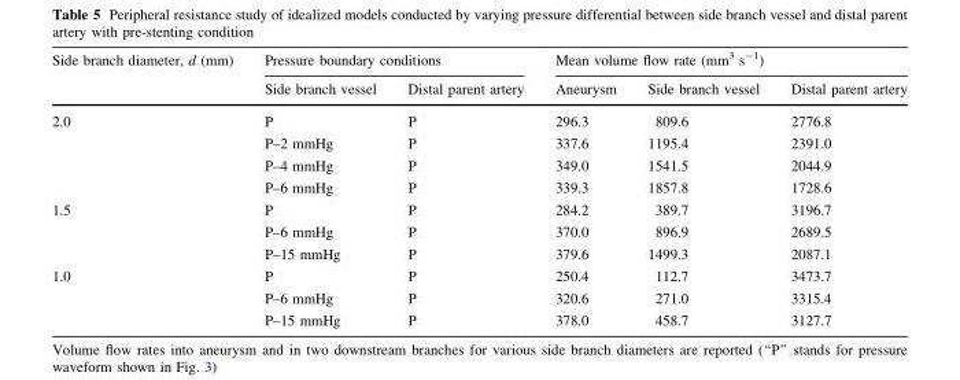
<table><thead><tr><td rowspan="2">Side branch diameter, d (mm)</td><td colspan="2">Pressure boundary conditions</td><td colspan="3">Mean volume flow rate (mm<sup>3</sup> s<sup>-1</sup>)</td></tr><tr><td>Side branch vessel</td><td>Distal parent artery</td><td>Aneurysm</td><td>Side branch vessel</td><td>Distal parent artery</td></tr></thead><tbody><tr><td rowspan="4">2.0</td><td>P</td><td>P</td><td>296.3</td><td>809.6</td><td>2776.8</td></tr><tr><td>P–2 mmHg</td><td>P</td><td>337.6</td><td>1195.4</td><td>2391.0</td></tr><tr><td>P–4 mmHg</td><td>P</td><td>349.0</td><td>1541.5</td><td>2044.9</td></tr><tr><td>P–6 mmHg</td><td>P</td><td>339.3</td><td>1857.8</td><td>1728.6</td></tr><tr><td rowspan="3">1.5</td><td>P</td><td>P</td><td>284.2</td><td>389.7</td><td>3196.7</td></tr><tr><td>P–6 mmHg</td><td>P</td><td>370.0</td><td>896.9</td><td>2689.5</td></tr><tr><td>P–15 mmHg</td><td>P</td><td>379.6</td><td>1499.3</td><td>2087.1</td></tr><tr><td rowspan="3">1.0</td><td>P</td><td>P</td><td>250.4</td><td>112.7</td><td>3473.7</td></tr><tr><td>P–6 mmHg</td><td>P</td><td>320.6</td><td>271.0</td><td>3315.4</td></tr><tr><td>P–15 mmHg</td><td>P</td><td>378.0</td><td>458.7</td><td>3127.7</td></tr></tbody></table>